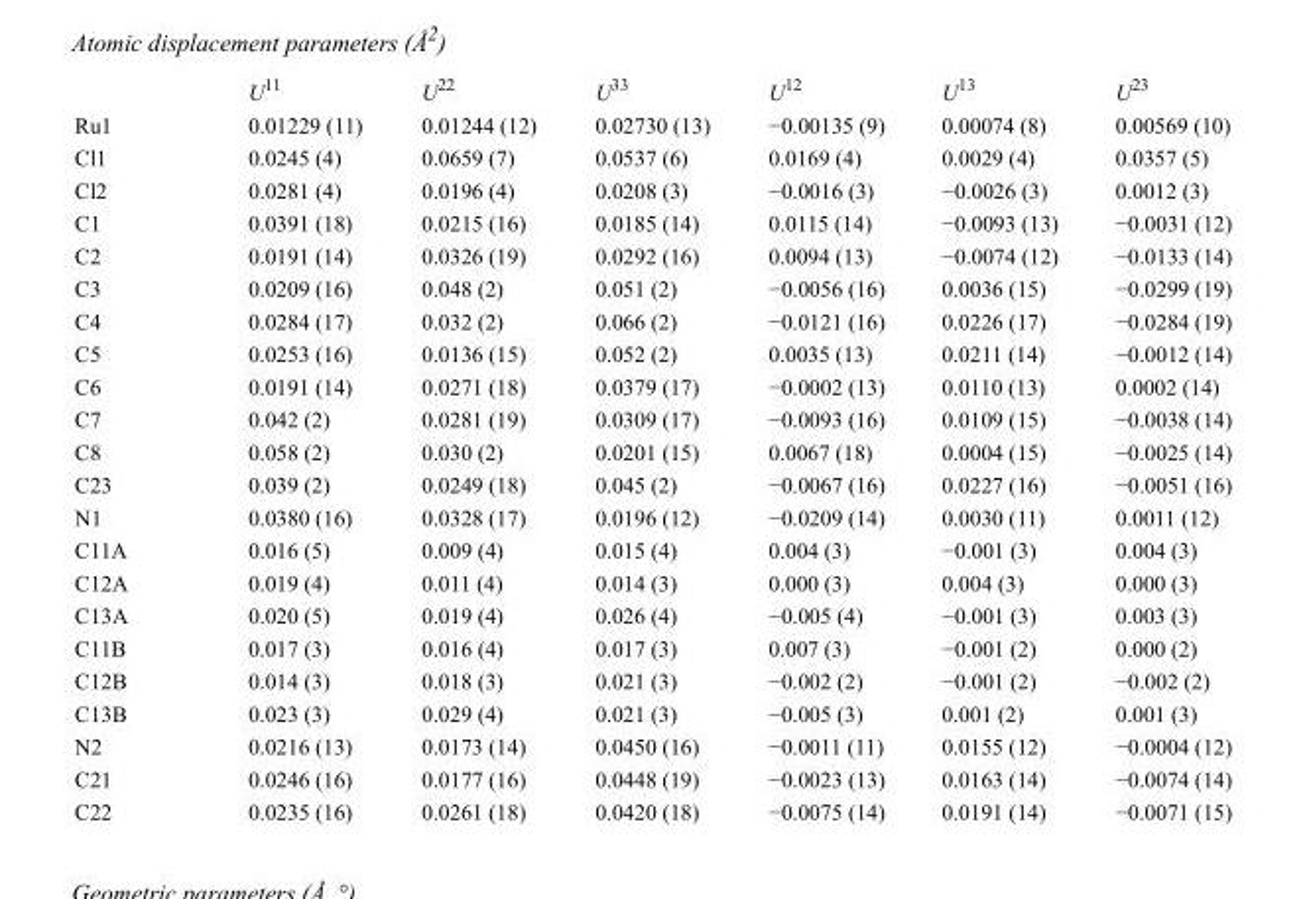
<table><thead><tr><td></td><td>U<sup>11</sup></td><td>U<sup>22</sup></td><td>U<sup>33</sup></td><td>U<sup>12</sup></td><td>U<sup>13</sup></td><td>U<sup>23</sup></td></tr></thead><tbody><tr><td>Ru1</td><td>0.01229 (11)</td><td>0.01244 (12)</td><td>0.02730 (13)</td><td>−0.00135 (9)</td><td>0.00074 (8)</td><td>0.00569 (10)</td></tr><tr><td>Cl1</td><td>0.0245 (4)</td><td>0.0659 (7)</td><td>0.0537 (6)</td><td>0.0169 (4)</td><td>0.0029 (4)</td><td>0.0357 (5)</td></tr><tr><td>Cl2</td><td>0.0281 (4)</td><td>0.0196 (4)</td><td>0.0208 (3)</td><td>−0.0016 (3)</td><td>−0.0026 (3)</td><td>0.0012 (3)</td></tr><tr><td>C1</td><td>0.0391 (18)</td><td>0.0215 (16)</td><td>0.0185 (14)</td><td>0.0115 (14)</td><td>−0.0093 (13)</td><td>−0.0031 (12)</td></tr><tr><td>C2</td><td>0.0191 (14)</td><td>0.0326 (19)</td><td>0.0292 (16)</td><td>0.0094 (13)</td><td>−0.0074 (12)</td><td>−0.0133 (14)</td></tr><tr><td>C3</td><td>0.0209 (16)</td><td>0.048 (2)</td><td>0.051 (2)</td><td>−0.0056 (16)</td><td>0.0036 (15)</td><td>−0.0299 (19)</td></tr><tr><td>C4</td><td>0.0284 (17)</td><td>0.032 (2)</td><td>0.066 (2)</td><td>−0.0121 (16)</td><td>0.0226 (17)</td><td>−0.0284 (19)</td></tr><tr><td>C5</td><td>0.0253 (16)</td><td>0.0136 (15)</td><td>0.052 (2)</td><td>0.0035 (13)</td><td>0.0211 (14)</td><td>−0.0012 (14)</td></tr><tr><td>C6</td><td>0.0191 (14)</td><td>0.0271 (18)</td><td>0.0379 (17)</td><td>−0.0002 (13)</td><td>0.0110 (13)</td><td>0.0002 (14)</td></tr><tr><td>C7</td><td>0.042 (2)</td><td>0.0281 (19)</td><td>0.0309 (17)</td><td>−0.0093 (16)</td><td>0.0109 (15)</td><td>−0.0038 (14)</td></tr><tr><td>C8</td><td>0.058 (2)</td><td>0.030 (2)</td><td>0.0201 (15)</td><td>0.0067 (18)</td><td>0.0004 (15)</td><td>−0.0025 (14)</td></tr><tr><td>C23</td><td>0.039 (2)</td><td>0.0249 (18)</td><td>0.045 (2)</td><td>−0.0067 (16)</td><td>0.0227 (16)</td><td>−0.0051 (16)</td></tr><tr><td>N1</td><td>0.0380 (16)</td><td>0.0328 (17)</td><td>0.0196 (12)</td><td>−0.0209 (14)</td><td>0.0030 (11)</td><td>0.0011 (12)</td></tr><tr><td>C11A</td><td>0.016 (5)</td><td>0.009 (4)</td><td>0.015 (4)</td><td>0.004 (3)</td><td>−0.001 (3)</td><td>0.004 (3)</td></tr><tr><td>C12A</td><td>0.019 (4)</td><td>0.011 (4)</td><td>0.014 (3)</td><td>0.000 (3)</td><td>0.004 (3)</td><td>0.000 (3)</td></tr><tr><td>C13A</td><td>0.020 (5)</td><td>0.019 (4)</td><td>0.026 (4)</td><td>−0.005 (4)</td><td>−0.001 (3)</td><td>0.003 (3)</td></tr><tr><td>C11B</td><td>0.017 (3)</td><td>0.016 (4)</td><td>0.017 (3)</td><td>0.007 (3)</td><td>−0.001 (2)</td><td>0.000 (2)</td></tr><tr><td>C12B</td><td>0.014 (3)</td><td>0.018 (3)</td><td>0.021 (3)</td><td>−0.002 (2)</td><td>−0.001 (2)</td><td>−0.002 (2)</td></tr><tr><td>C13B</td><td>0.023 (3)</td><td>0.029 (4)</td><td>0.021 (3)</td><td>−0.005 (3)</td><td>0.001 (2)</td><td>0.001 (3)</td></tr><tr><td>N2</td><td>0.0216 (13)</td><td>0.0173 (14)</td><td>0.0450 (16)</td><td>−0.0011 (11)</td><td>0.0155 (12)</td><td>−0.0004 (12)</td></tr><tr><td>C21</td><td>0.0246 (16)</td><td>0.0177 (16)</td><td>0.0448 (19)</td><td>−0.0023 (13)</td><td>0.0163 (14)</td><td>−0.0074 (14)</td></tr><tr><td>C22</td><td>0.0235 (16)</td><td>0.0261 (18)</td><td>0.0420 (18)</td><td>−0.0075 (14)</td><td>0.0191 (14)</td><td>−0.0071 (15)</td></tr></tbody></table>